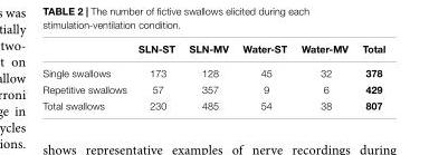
<table><thead><tr><td></td><td>SLN-ST</td><td>SLN-MV</td><td>Water-ST</td><td>Water-MV</td><td>Total</td></tr></thead><tbody><tr><td>Single swallows</td><td>173</td><td>128</td><td>45</td><td>32</td><td>378</td></tr><tr><td>Repetitive swallows</td><td>57</td><td>357</td><td>9</td><td>6</td><td>429</td></tr><tr><td>Total swallows</td><td>230</td><td>485</td><td>54</td><td>38</td><td>807</td></tr></tbody></table>